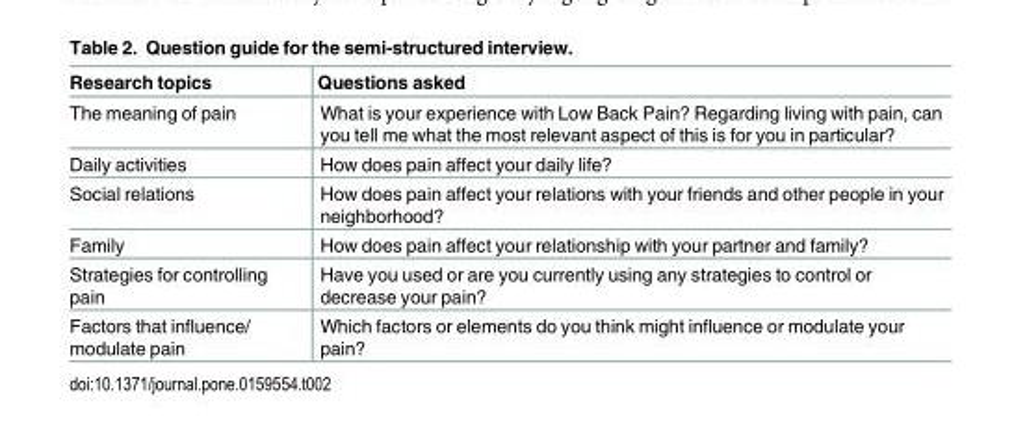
<table><thead><tr><td>Research topics</td><td>Questions asked</td></tr></thead><tbody><tr><td>The meaning of pain</td><td>What is your experience with Low Back Pain? Regarding living with pain, can you tell me what the most relevant aspect of this is for you in particular?</td></tr><tr><td>Daily activities</td><td>How does pain affect your daily life?</td></tr><tr><td>Social relations</td><td>How does pain affect your relations with your friends and other people in your neighborhood?</td></tr><tr><td>Family</td><td>How does pain affect your relationship with your partner and family?</td></tr><tr><td>Strategies for controlling pain</td><td>Have you used or are you currently using any strategies to control or decrease your pain?</td></tr><tr><td>Factors that influence/ modulate pain</td><td>Which factors or elements do you think might influence or modulate your pain?</td></tr></tbody></table>